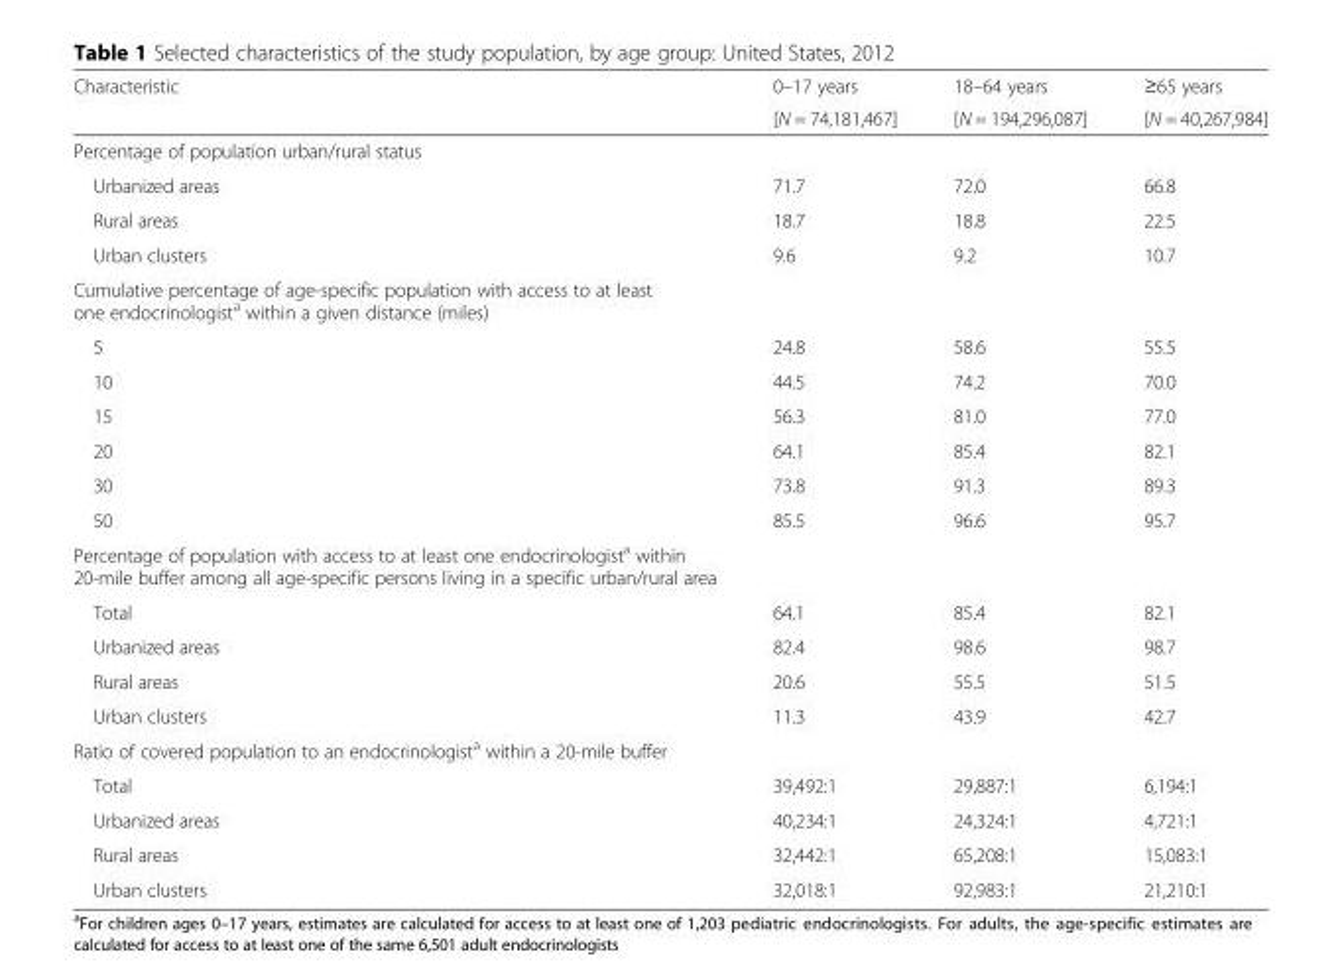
<table><thead><tr><td rowspan="2">Characteristic</td><td rowspan="2">0–17 years [N = 74,181,467]</td><td rowspan="2">18–64 years [N = 194,296,087]</td><td rowspan="2">≥65 years [N = 40,267,984]</td></tr><tr></tr></thead><tbody><tr><td colspan="4">Percentage of population urban/rural status</td></tr><tr><td>Urbanized areas</td><td>71.7</td><td>72.0</td><td>66.8</td></tr><tr><td>Rural areas</td><td>18.7</td><td>18.8</td><td>22.5</td></tr><tr><td>Urban clusters</td><td>9.6</td><td>9.2</td><td>10.7</td></tr><tr><td colspan="4">Cumulative percentage of age-specific population with access to at least one endocrinologist<sup>a</sup> within a given distance (miles)</td></tr><tr><td>5</td><td>24.8</td><td>58.6</td><td>55.5</td></tr><tr><td>10</td><td>44.5</td><td>74.2</td><td>70.0</td></tr><tr><td>15</td><td>56.3</td><td>81.0</td><td>77.0</td></tr><tr><td>20</td><td>64.1</td><td>85.4</td><td>82.1</td></tr><tr><td>30</td><td>73.8</td><td>91.3</td><td>89.3</td></tr><tr><td>50</td><td>85.5</td><td>96.6</td><td>95.7</td></tr><tr><td colspan="4">Percentage of population with access to at least one endocrinologist<sup>a</sup> within 20-mile buffer among all age-specific persons living in a specific urban/rural area</td></tr><tr><td>Total</td><td>64.1</td><td>85.4</td><td>82.1</td></tr><tr><td>Urbanized areas</td><td>82.4</td><td>98.6</td><td>98.7</td></tr><tr><td>Rural areas</td><td>20.6</td><td>55.5</td><td>51.5</td></tr><tr><td>Urban clusters</td><td>11.3</td><td>43.9</td><td>42.7</td></tr><tr><td colspan="4">Ratio of covered population to an endocrinologist<sup>a</sup> within a 20-mile buffer</td></tr><tr><td>Total</td><td>39,492:1</td><td>29,887:1</td><td>6,194:1</td></tr><tr><td>Urbanized areas</td><td>40,234:1</td><td>24,324:1</td><td>4,721:1</td></tr><tr><td>Rural areas</td><td>32,442:1</td><td>65,208:1</td><td>15,083:1</td></tr><tr><td>Urban clusters</td><td>32,018:1</td><td>92,983:1</td><td>21,210:1</td></tr></tbody></table>